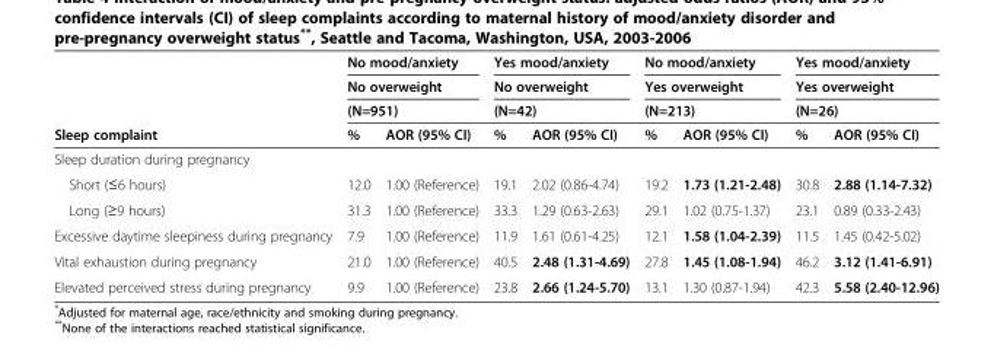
<table><thead><tr><td rowspan="4">Sleep complaint</td><td rowspan="3" colspan="2">No mood/anxiety No overweight (N=951)</td><td rowspan="3" colspan="2">Yes mood/anxiety No overweight (N=42)</td><td rowspan="3" colspan="2">No mood/anxiety Yes overweight (N=213)</td><td rowspan="3" colspan="2">Yes mood/anxiety Yes overweight (N=26)</td></tr><tr></tr><tr></tr><tr><td>%</td><td>AOR (95% CI)</td><td>%</td><td>AOR (95% CI)</td><td>%</td><td>AOR (95% CI)</td><td>%</td><td>AOR (95% CI)</td></tr></thead><tbody><tr><td colspan="9">Sleep duration during pregnancy</td></tr><tr><td>Short (≤6 hours)</td><td>12.0</td><td>1.00 (Reference)</td><td>19.1</td><td>2.02 (0.86-4.74)</td><td>19.2</td><td>1.73 (1.21-2.48)</td><td>30.8</td><td>2.88 (1.14-7.32)</td></tr><tr><td>Long (≥9 hours)</td><td>31.3</td><td>1.00 (Reference)</td><td>33.3</td><td>1.29 (0.63-2.63)</td><td>29.1</td><td>1.02 (0.75-1.37)</td><td>23.1</td><td>0.89 (0.33-2.43)</td></tr><tr><td>Excessive daytime sleepiness during pregnancy</td><td>7.9</td><td>1.00 (Reference)</td><td>11.9</td><td>1.61 (0.61-4.25)</td><td>12.1</td><td>1.58 (1.04-2.39)</td><td>11.5</td><td>1.45 (0.42-5.02)</td></tr><tr><td>Vital exhaustion during pregnancy</td><td>21.0</td><td>1.00 (Reference)</td><td>40.5</td><td>2.48 (1.31-4.69)</td><td>27.8</td><td>1.45 (1.08-1.94)</td><td>46.2</td><td>3.12 (1.41-6.91)</td></tr><tr><td>Elevated perceived stress during pregnancy</td><td>9.9</td><td>1.00 (Reference)</td><td>23.8</td><td>2.66 (1.24-5.70)</td><td>13.1</td><td>1.30 (0.87-1.94)</td><td>42.3</td><td>5.58 (2.40-12.96)</td></tr></tbody></table>